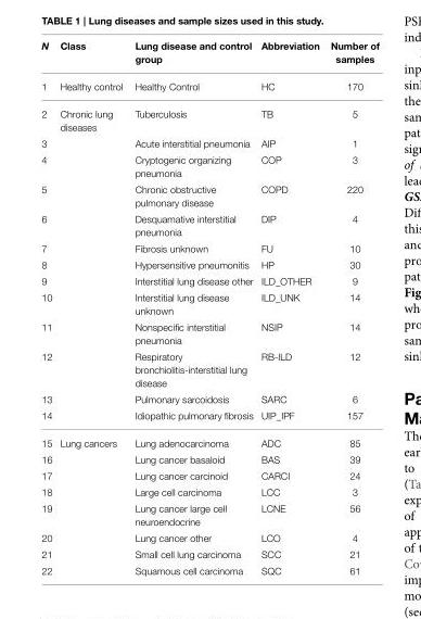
<table><thead><tr><td>N</td><td>Class</td><td>Lung disease and control group</td><td>Abbreviation</td><td>Number of samples</td></tr></thead><tbody><tr><td>1</td><td>Healthy control</td><td>Healthy Control</td><td>HC</td><td>170</td></tr><tr><td>2</td><td>Chronic lung diseases</td><td>Tuberculosis</td><td>TB</td><td>5</td></tr><tr><td>3</td><td></td><td>Acute interstitial pneumonia</td><td>AIP</td><td>1</td></tr><tr><td>4</td><td></td><td>Cryptogenic organizing pneumonia</td><td>COP</td><td>3</td></tr><tr><td>5</td><td></td><td>Chronic obstructive pulmonary disease</td><td>COPD</td><td>220</td></tr><tr><td>6</td><td></td><td>Desquamative interstitial pneumonia</td><td>DIP</td><td>4</td></tr><tr><td>7</td><td></td><td>Fibrosis unknown</td><td>FU</td><td>10</td></tr><tr><td>8</td><td></td><td>Hypersensitive pneumonitis</td><td>HP</td><td>30</td></tr><tr><td>9</td><td></td><td>Interstitial lung disease other</td><td>ILD_OTHER</td><td>9</td></tr><tr><td>10</td><td></td><td>Interstitial lung disease unknown</td><td>ILD_UNK</td><td>14</td></tr><tr><td>11</td><td></td><td>Nonspecific interstitial pneumonia</td><td>NSIP</td><td>14</td></tr><tr><td>12</td><td></td><td>Respiratory bronchiolitis-interstitial lung disease</td><td>RB-ILD</td><td>12</td></tr><tr><td>13</td><td></td><td>Pulmonary sarcoidosis</td><td>SARC</td><td>6</td></tr><tr><td>14</td><td></td><td>Idiopathic pulmonary fibrosis</td><td>UIP_IPF</td><td>157</td></tr><tr><td>15</td><td>Lung cancers</td><td>Lung adenocarcinoma</td><td>ADC</td><td>85</td></tr><tr><td>16</td><td></td><td>Lung cancer basaloid</td><td>BAS</td><td>39</td></tr><tr><td>17</td><td></td><td>Lung cancer carcinoid</td><td>CARCI</td><td>24</td></tr><tr><td>18</td><td></td><td>Large cell carcinoma</td><td>LCC</td><td>3</td></tr><tr><td>19</td><td></td><td>Lung cancer large cell neuroendocrine</td><td>LCNE</td><td>56</td></tr><tr><td>20</td><td></td><td>Lung cancer other</td><td>LCO</td><td>4</td></tr><tr><td>21</td><td></td><td>Small cell lung carcinoma</td><td>SCC</td><td>21</td></tr><tr><td>22</td><td></td><td>Squamous cell carcinoma</td><td>SQC</td><td>61</td></tr></tbody></table>